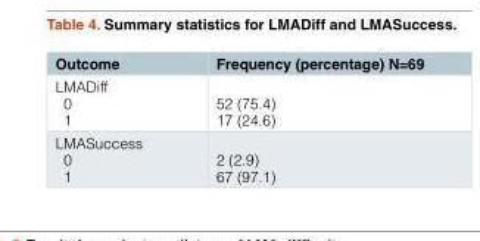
<table><thead><tr><td>Outcome</td><td>Frequency (percentage) N=69</td></tr></thead><tbody><tr><td>LMADiff 0 1</td><td>52 (75.4) 17 (24.6)</td></tr><tr><td>LMASuccess 0 1</td><td>2 (2.9) 67 (97.1)</td></tr></tbody></table>